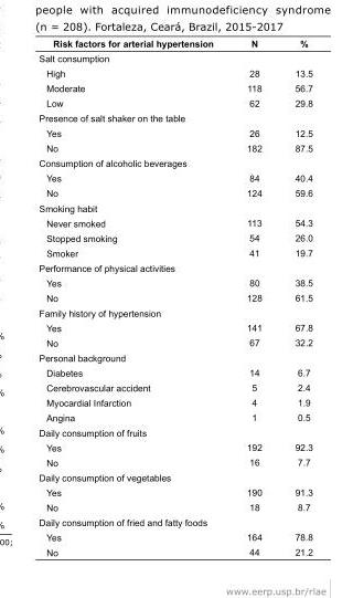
<table><tbody><tr><td>Risk factors for arterial hypertension</td><td>N</td><td>%</td></tr><tr><td colspan="3">Salt consumption</td></tr><tr><td>High</td><td>28</td><td>13.5</td></tr><tr><td>Moderate</td><td>118</td><td>56.7</td></tr><tr><td>Low</td><td>62</td><td>29.8</td></tr><tr><td colspan="3">Presence of salt shaker on the table</td></tr><tr><td>Yes</td><td>26</td><td>12.5</td></tr><tr><td>No</td><td>182</td><td>87.5</td></tr><tr><td colspan="3">Consumption of alcoholic beverages</td></tr><tr><td>Yes</td><td>84</td><td>40.4</td></tr><tr><td>No</td><td>124</td><td>59.6</td></tr><tr><td colspan="3">Smoking habit</td></tr><tr><td>Never smoked</td><td>113</td><td>54.3</td></tr><tr><td>Stopped smoking</td><td>54</td><td>26.0</td></tr><tr><td>Smoker</td><td>41</td><td>19.7</td></tr><tr><td colspan="3">Performance of physical activities</td></tr><tr><td>Yes</td><td>80</td><td>38.5</td></tr><tr><td>No</td><td>128</td><td>61.5</td></tr><tr><td colspan="3">Family history of hypertension</td></tr><tr><td>Yes</td><td>141</td><td>67.8</td></tr><tr><td>No</td><td>67</td><td>32.2</td></tr><tr><td colspan="3">Personal background</td></tr><tr><td>Diabetes</td><td>14</td><td>6.7</td></tr><tr><td>Cerebrovascular accident</td><td>5</td><td>2.4</td></tr><tr><td>Myocardial Infarction</td><td>4</td><td>1.9</td></tr><tr><td>Angina</td><td>1</td><td>0.5</td></tr><tr><td colspan="3">Daily consumption of fruits</td></tr><tr><td>Yes</td><td>192</td><td>92.3</td></tr><tr><td>No</td><td>16</td><td>7.7</td></tr><tr><td colspan="3">Daily consumption of vegetables</td></tr><tr><td>Yes</td><td>190</td><td>91.3</td></tr><tr><td>No</td><td>18</td><td>8.7</td></tr><tr><td colspan="3">Daily consumption of fried and fatty foods</td></tr><tr><td>Yes</td><td>164</td><td>78.8</td></tr><tr><td>No</td><td>44</td><td>21.2</td></tr></tbody></table>